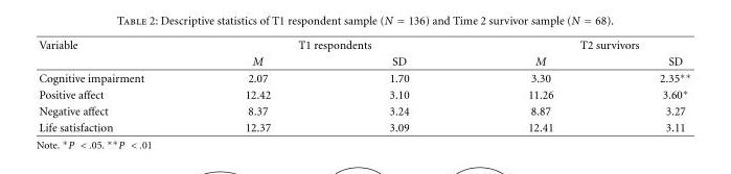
<table><thead><tr><td rowspan="2">Variable</td><td colspan="2">T1 respondents</td><td colspan="2">T2 survivors</td></tr><tr><td>M</td><td>SD</td><td>M</td><td>SD</td></tr></thead><tbody><tr><td>Cognitive impairment</td><td>2.07</td><td>1.70</td><td>3.30</td><td>2.35∗∗</td></tr><tr><td>Positive affect</td><td>12.42</td><td>3.10</td><td>11.26</td><td>3.60∗</td></tr><tr><td>Negative affect</td><td>8.37</td><td>3.24</td><td>8.87</td><td>3.27</td></tr><tr><td>Life satisfaction</td><td>12.37</td><td>3.09</td><td>12.41</td><td>3.11</td></tr></tbody></table>